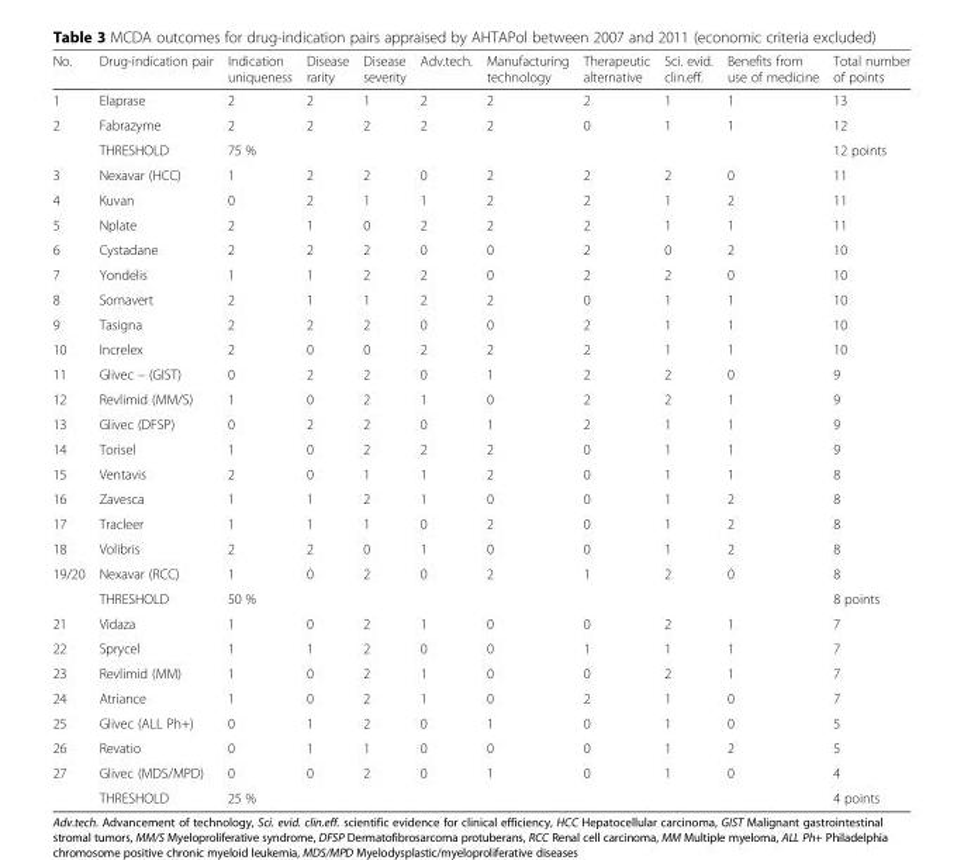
<table><thead><tr><td>No.</td><td>Drug-indication pair</td><td>Indication uniqueness</td><td>Disease rarity</td><td>Disease severity</td><td>Adv.tech.</td><td>Manufacturing technology</td><td>Therapeutic alternative</td><td>Sci. evid. clin.eff.</td><td>Benefits from use of medicine</td><td>Total number of points</td></tr></thead><tbody><tr><td>1</td><td>Elaprase</td><td>2</td><td>2</td><td>1</td><td>2</td><td>2</td><td>2</td><td>1</td><td>1</td><td>13</td></tr><tr><td rowspan="2">2</td><td>Fabrazyme</td><td>2</td><td>2</td><td>2</td><td>2</td><td>2</td><td>0</td><td>1</td><td>1</td><td>12</td></tr><tr><td>THRESHOLD</td><td>75 %</td><td></td><td></td><td></td><td></td><td></td><td></td><td></td><td>12 points</td></tr><tr><td>3</td><td>Nexavar (HCC)</td><td>1</td><td>2</td><td>2</td><td>0</td><td>2</td><td>2</td><td>2</td><td>0</td><td>11</td></tr><tr><td>4</td><td>Kuvan</td><td>0</td><td>2</td><td>1</td><td>1</td><td>2</td><td>2</td><td>1</td><td>2</td><td>11</td></tr><tr><td>5</td><td>Nplate</td><td>2</td><td>1</td><td>0</td><td>2</td><td>2</td><td>2</td><td>1</td><td>1</td><td>11</td></tr><tr><td>6</td><td>Cystadane</td><td>2</td><td>2</td><td>2</td><td>0</td><td>0</td><td>2</td><td>0</td><td>2</td><td>10</td></tr><tr><td>7</td><td>Yondelis</td><td>1</td><td>1</td><td>2</td><td>2</td><td>0</td><td>2</td><td>2</td><td>0</td><td>10</td></tr><tr><td>8</td><td>Somavert</td><td>2</td><td>1</td><td>1</td><td>2</td><td>2</td><td>0</td><td>1</td><td>1</td><td>10</td></tr><tr><td>9</td><td>Tasigna</td><td>2</td><td>2</td><td>2</td><td>0</td><td>0</td><td>2</td><td>1</td><td>1</td><td>10</td></tr><tr><td>10</td><td>Increlex</td><td>2</td><td>0</td><td>0</td><td>2</td><td>2</td><td>2</td><td>1</td><td>1</td><td>10</td></tr><tr><td>11</td><td>Glivec – (GIST)</td><td>0</td><td>2</td><td>2</td><td>0</td><td>1</td><td>2</td><td>2</td><td>0</td><td>9</td></tr><tr><td>12</td><td>Revlimid (MM/S)</td><td>1</td><td>0</td><td>2</td><td>1</td><td>0</td><td>2</td><td>2</td><td>1</td><td>9</td></tr><tr><td>13</td><td>Glivec (DFSP)</td><td>0</td><td>2</td><td>2</td><td>0</td><td>1</td><td>2</td><td>1</td><td>1</td><td>9</td></tr><tr><td>14</td><td>Torisel</td><td>1</td><td>0</td><td>2</td><td>2</td><td>2</td><td>0</td><td>1</td><td>1</td><td>9</td></tr><tr><td>15</td><td>Ventavis</td><td>2</td><td>0</td><td>1</td><td>1</td><td>2</td><td>0</td><td>1</td><td>1</td><td>8</td></tr><tr><td>16</td><td>Zavesca</td><td>1</td><td>1</td><td>2</td><td>1</td><td>0</td><td>0</td><td>1</td><td>2</td><td>8</td></tr><tr><td>17</td><td>Tracleer</td><td>1</td><td>1</td><td>1</td><td>0</td><td>2</td><td>0</td><td>1</td><td>2</td><td>8</td></tr><tr><td>18</td><td>Volibris</td><td>2</td><td>2</td><td>0</td><td>1</td><td>0</td><td>0</td><td>1</td><td>2</td><td>8</td></tr><tr><td rowspan="2">19/20</td><td>Nexavar (RCC)</td><td>1</td><td>0</td><td>2</td><td>0</td><td>2</td><td>1</td><td>2</td><td>0</td><td>8</td></tr><tr><td>THRESHOLD</td><td>50 %</td><td></td><td></td><td></td><td></td><td></td><td></td><td></td><td>8 points</td></tr><tr><td>21</td><td>Vidaza</td><td>1</td><td>0</td><td>2</td><td>1</td><td>0</td><td>0</td><td>2</td><td>1</td><td>7</td></tr><tr><td>22</td><td>Sprycel</td><td>1</td><td>1</td><td>2</td><td>0</td><td>0</td><td>1</td><td>1</td><td>1</td><td>7</td></tr><tr><td>23</td><td>Revlimid (MM)</td><td>1</td><td>0</td><td>2</td><td>1</td><td>0</td><td>0</td><td>2</td><td>1</td><td>7</td></tr><tr><td>24</td><td>Atriance</td><td>1</td><td>0</td><td>2</td><td>1</td><td>0</td><td>2</td><td>1</td><td>0</td><td>7</td></tr><tr><td>25</td><td>Glivec (ALL Ph+)</td><td>0</td><td>1</td><td>2</td><td>0</td><td>1</td><td>0</td><td>1</td><td>0</td><td>5</td></tr><tr><td>26</td><td>Revatio</td><td>0</td><td>1</td><td>1</td><td>0</td><td>0</td><td>0</td><td>1</td><td>2</td><td>5</td></tr><tr><td rowspan="2">27</td><td>Glivec (MDS/MPD)</td><td>0</td><td>0</td><td>2</td><td>0</td><td>1</td><td>0</td><td>1</td><td>0</td><td>4</td></tr><tr><td>THRESHOLD</td><td>25 %</td><td></td><td></td><td></td><td></td><td></td><td></td><td></td><td>4 points</td></tr></tbody></table>